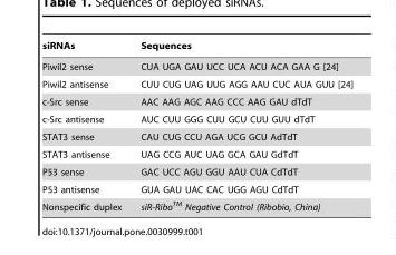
<table><thead><tr><td>siRNAs</td><td>Sequences</td></tr></thead><tbody><tr><td>Piwil2 sense</td><td>CUA UGA GAU UCC UCA ACU ACA GAA G [24]</td></tr><tr><td>Piwil2 antisense</td><td>CUU CUG UAG UUG AGG AAU CUC AUA GUU [24]</td></tr><tr><td>c-Src sense</td><td>AAC AAG AGC AAG CCC AAG GAU dTdT</td></tr><tr><td>c-Src antisense</td><td>AUC CUU GGG CUU GCU CUU GUU dTdT</td></tr><tr><td>STAT3 sense</td><td>CAU CUG CCU AGA UCG GCU AdTdT</td></tr><tr><td>STAT3 antisense</td><td>UAG CCG AUC UAG GCA GAU GdTdT</td></tr><tr><td>P53 sense</td><td>GAC UCC AGU GGU AAU CUA CdTdT</td></tr><tr><td>P53 antisense</td><td>GUA GAU UAC CAC UGG AGU CdTdT</td></tr><tr><td>Nonspecific duplex</td><td>siR-RiboTM Negative Control (Ribobio, China)</td></tr></tbody></table>